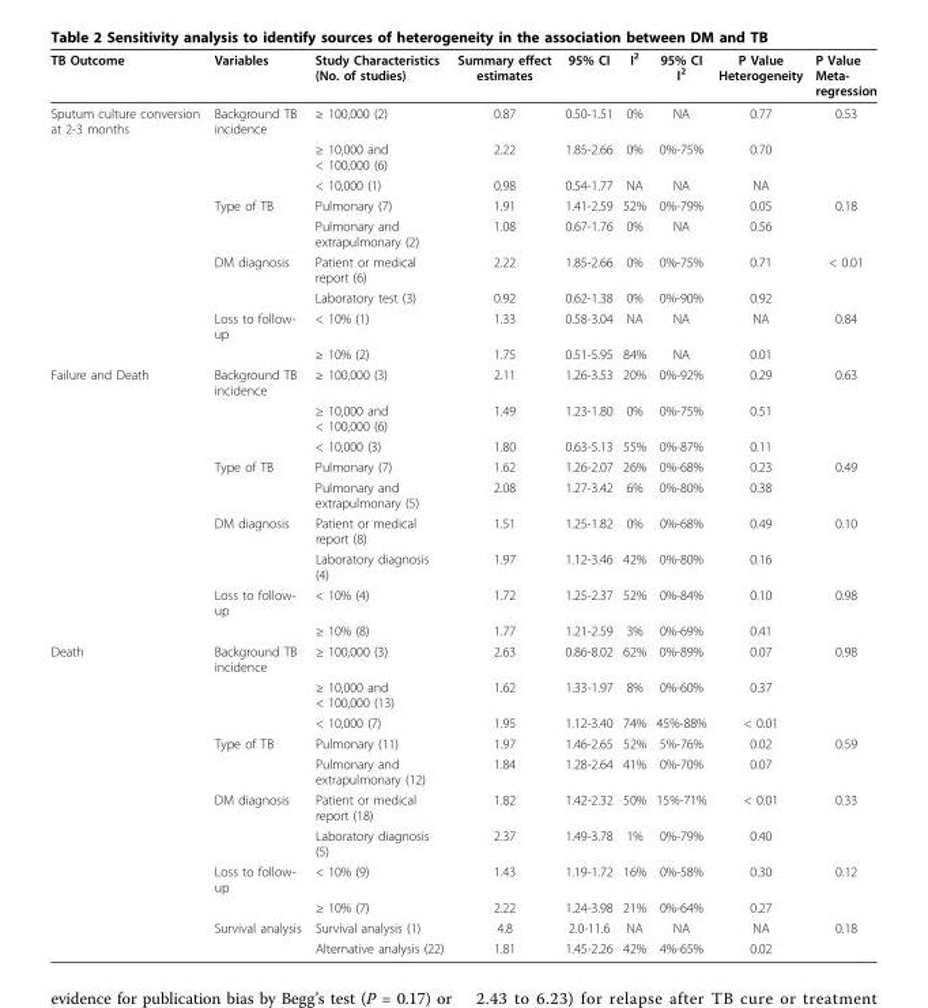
<table><thead><tr><td>TB Outcome</td><td>Variables</td><td>Study Characteristics (No. of studies)</td><td>Summary effect estimates</td><td>95% CI</td><td>I<sup>2</sup></td><td>95% CI I<sup>2</sup></td><td>P Value Heterogeneity</td><td>P Value Meta- regression</td></tr></thead><tbody><tr><td rowspan="9">Sputum culture conversion at 2-3 months</td><td>Background TB incidence</td><td>≥ 100,000 (2)</td><td>0.87</td><td>0.50-1.51</td><td>0%</td><td>NA</td><td>0.77</td><td>0.53</td></tr><tr><td></td><td>≥ 10,000 and &lt; 100,000 (6)</td><td>2.22</td><td>1.85-2.66</td><td>0%</td><td>0%-75%</td><td>0.70</td><td></td></tr><tr><td></td><td>&lt; 10,000 (1)</td><td>0.98</td><td>0.54-1.77</td><td>NA</td><td>NA</td><td>NA</td><td></td></tr><tr><td>Type of TB</td><td>Pulmonary (7)</td><td>1.91</td><td>1.41-2.59</td><td>52%</td><td>0%-79%</td><td>0.05</td><td>0.18</td></tr><tr><td></td><td>Pulmonary and extrapulmonary (2)</td><td>1.08</td><td>0.67-1.76</td><td>0%</td><td>NA</td><td>0.56</td><td></td></tr><tr><td>DM diagnosis</td><td>Patient or medical report (6)</td><td>2.22</td><td>1.85-2.66</td><td>0%</td><td>0%-75%</td><td>0.71</td><td>&lt; 0.01</td></tr><tr><td></td><td>Laboratory test (3)</td><td>0.92</td><td>0.62-1.38</td><td>0%</td><td>0%-90%</td><td>0.92</td><td></td></tr><tr><td>Loss to follow- up</td><td>&lt; 10% (1)</td><td>1.33</td><td>0.58-3.04</td><td>NA</td><td>NA</td><td>NA</td><td>0.84</td></tr><tr><td></td><td>≥ 10% (2)</td><td>1.75</td><td>0.51-5.95</td><td>84%</td><td>NA</td><td>0.01</td><td></td></tr><tr><td rowspan="9">Failure and Death</td><td>Background TB incidence</td><td>≥ 100,000 (3)</td><td>2.11</td><td>1.26-3.53</td><td>20%</td><td>0%-92%</td><td>0.29</td><td>0.63</td></tr><tr><td></td><td>≥ 10,000 and &lt; 100,000 (6)</td><td>1.49</td><td>1.23-1.80</td><td>0%</td><td>0%-75%</td><td>0.51</td><td></td></tr><tr><td></td><td>&lt; 10,000 (3)</td><td>1.80</td><td>0.63-5.13</td><td>55%</td><td>0%-87%</td><td>0.11</td><td></td></tr><tr><td>Type of TB</td><td>Pulmonary (7)</td><td>1.62</td><td>1.26-2.07</td><td>26%</td><td>0%-68%</td><td>0.23</td><td>0.49</td></tr><tr><td></td><td>Pulmonary and extrapulmonary (5)</td><td>2.08</td><td>1.27-3.42</td><td>6%</td><td>0%-80%</td><td>0.38</td><td></td></tr><tr><td>DM diagnosis</td><td>Patient or medical report (8)</td><td>1.51</td><td>1.25-1.82</td><td>0%</td><td>0%-68%</td><td>0.49</td><td>0.10</td></tr><tr><td></td><td>Laboratory diagnosis (4)</td><td>1.97</td><td>1.12-3.46</td><td>42%</td><td>0%-80%</td><td>0.16</td><td></td></tr><tr><td>Loss to follow- up</td><td>&lt; 10% (4)</td><td>1.72</td><td>1.25-2.37</td><td>52%</td><td>0%-84%</td><td>0.10</td><td>0.98</td></tr><tr><td></td><td>≥ 10% (8)</td><td>1.77</td><td>1.21-2.59</td><td>3%</td><td>0%-69%</td><td>0.41</td><td></td></tr><tr><td rowspan="11">Death</td><td>Background TB incidence</td><td>≥ 100,000 (3)</td><td>2.63</td><td>0.86-8.02</td><td>62%</td><td>0%-89%</td><td>0.07</td><td>0.98</td></tr><tr><td></td><td>≥ 10,000 and &lt; 100,000 (13)</td><td>1.62</td><td>1.33-1.97</td><td>8%</td><td>0%-60%</td><td>0.37</td><td></td></tr><tr><td></td><td>&lt; 10,000 (7)</td><td>1.95</td><td>1.12-3.40</td><td>74%</td><td>45%-88%</td><td>&lt; 0.01</td><td></td></tr><tr><td>Type of TB</td><td>Pulmonary (11)</td><td>1.97</td><td>1.46-2.65</td><td>52%</td><td>5%-76%</td><td>0.02</td><td>0.59</td></tr><tr><td></td><td>Pulmonary and extrapulmonary (12)</td><td>1.84</td><td>1.28-2.64</td><td>41%</td><td>0%-70%</td><td>0.07</td><td></td></tr><tr><td>DM diagnosis</td><td>Patient or medical report (18)</td><td>1.82</td><td>1.42-2.32</td><td>50%</td><td>15%-71%</td><td>&lt; 0.01</td><td>0.33</td></tr><tr><td></td><td>Laboratory diagnosis (5)</td><td>2.37</td><td>1.49-3.78</td><td>1%</td><td>0%-79%</td><td>0.40</td><td></td></tr><tr><td>Loss to follow- up</td><td>&lt; 10% (9)</td><td>1.43</td><td>1.19-1.72</td><td>16%</td><td>0%-58%</td><td>0.30</td><td>0.12</td></tr><tr><td></td><td>≥ 10% (7)</td><td>2.22</td><td>1.24-3.98</td><td>21%</td><td>0%-64%</td><td>0.27</td><td></td></tr><tr><td>Survival analysis</td><td>Survival analysis (1)</td><td>4.8</td><td>2.0-11.6</td><td>NA</td><td>NA</td><td>NA</td><td>0.18</td></tr><tr><td></td><td>Alternative analysis (22)</td><td>1.81</td><td>1.45-2.26</td><td>42%</td><td>4%-65%</td><td>0.02</td><td></td></tr></tbody></table>